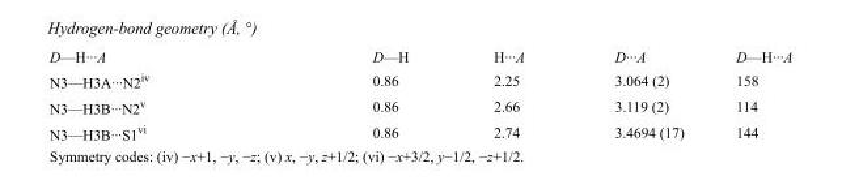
<table><tbody><tr><td>D—H···A</td><td>D—H</td><td>H···A</td><td>D···A</td><td>D—H···A</td></tr><tr><td>N3—H3A···N2<sup>iv</sup></td><td>0.86</td><td>2.25</td><td>3.064 (2)</td><td>158</td></tr><tr><td>N3—H3B···N2<sup>v</sup></td><td>0.86</td><td>2.66</td><td>3.119 (2)</td><td>114</td></tr><tr><td>N3—H3B···S1<sup>vi</sup></td><td>0.86</td><td>2.74</td><td>3.4694 (17)</td><td>144</td></tr></tbody></table>